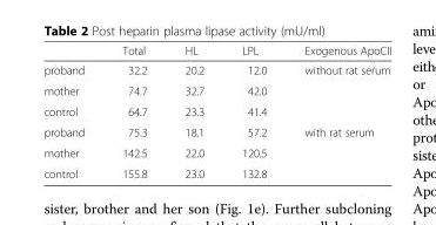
<table><thead><tr><td></td><td>Total</td><td>HL</td><td>LPL</td><td>Exogenous ApoCII</td></tr></thead><tbody><tr><td>proband</td><td>32.2</td><td>20.2</td><td>12.0</td><td rowspan="3">without rat serum</td></tr><tr><td>mother</td><td>74.7</td><td>32.7</td><td>42.0</td></tr><tr><td>control</td><td>64.7</td><td>23.3</td><td>41.4</td></tr><tr><td>proband</td><td>75.3</td><td>18.1</td><td>57.2</td><td rowspan="3">with rat serum</td></tr><tr><td>mother</td><td>142.5</td><td>22.0</td><td>120.5</td></tr><tr><td>control</td><td>155.8</td><td>23.0</td><td>132.8</td></tr></tbody></table>